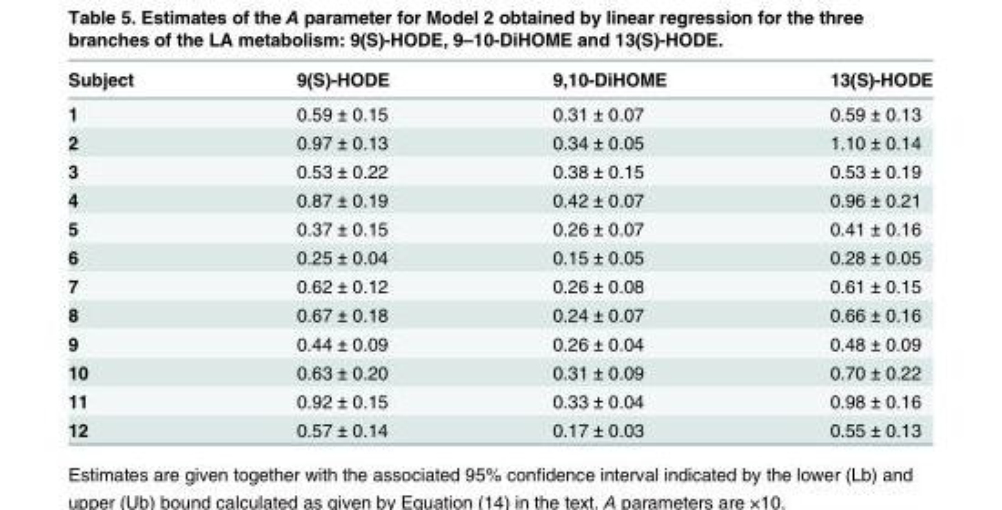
<table><thead><tr><td>Subject</td><td>9(S)-HODE</td><td>9,10-DiHOME</td><td>13(S)-HODE</td></tr></thead><tbody><tr><td>1</td><td>0.59 ± 0.15</td><td>0.31 ± 0.07</td><td>0.59 ± 0.13</td></tr><tr><td>2</td><td>0.97 ± 0.13</td><td>0.34 ± 0.05</td><td>1.10 ± 0.14</td></tr><tr><td>3</td><td>0.53 ± 0.22</td><td>0.38 ± 0.15</td><td>0.53 ± 0.19</td></tr><tr><td>4</td><td>0.87 ± 0.19</td><td>0.42 ± 0.07</td><td>0.96 ± 0.21</td></tr><tr><td>5</td><td>0.37 ± 0.15</td><td>0.26 ± 0.07</td><td>0.41 ± 0.16</td></tr><tr><td>6</td><td>0.25 ± 0.04</td><td>0.15 ± 0.05</td><td>0.28 ± 0.05</td></tr><tr><td>7</td><td>0.62 ± 0.12</td><td>0.26 ± 0.08</td><td>0.61 ± 0.15</td></tr><tr><td>8</td><td>0.67 ± 0.18</td><td>0.24 ± 0.07</td><td>0.66 ± 0.16</td></tr><tr><td>9</td><td>0.44 ± 0.09</td><td>0.26 ± 0.04</td><td>0.48 ± 0.09</td></tr><tr><td>10</td><td>0.63 ± 0.20</td><td>0.31 ± 0.09</td><td>0.70 ± 0.22</td></tr><tr><td>11</td><td>0.92 ± 0.15</td><td>0.33 ± 0.04</td><td>0.98 ± 0.16</td></tr><tr><td>12</td><td>0.57 ± 0.14</td><td>0.17 ± 0.03</td><td>0.55 ± 0.13</td></tr></tbody></table>